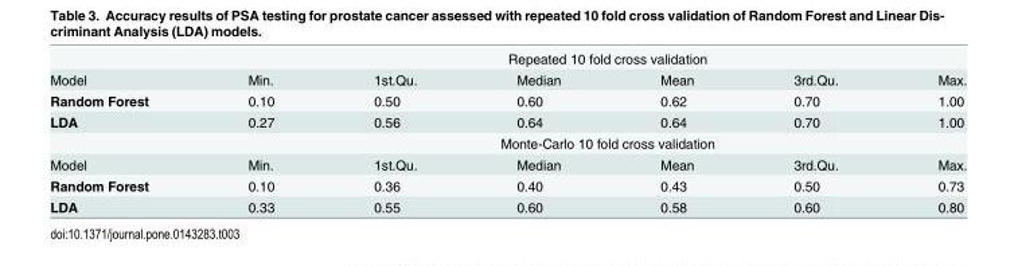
<table><thead><tr><td rowspan="2">Model</td><td colspan="6">Repeated 10 fold cross validation</td></tr><tr><td>Min.</td><td>1st.Qu.</td><td>Median</td><td>Mean</td><td>3rd.Qu.</td><td>Max.</td></tr></thead><tbody><tr><td>Random Forest</td><td>0.10</td><td>0.50</td><td>0.60</td><td>0.62</td><td>0.70</td><td>1.00</td></tr><tr><td rowspan="2">LDA</td><td>0.27</td><td>0.56</td><td>0.64</td><td>0.64</td><td>0.70</td><td>1.00</td></tr><tr><td colspan="6">Monte-Carlo 10 fold cross validation</td></tr><tr><td>Model</td><td>Min.</td><td>1st.Qu.</td><td>Median</td><td>Mean</td><td>3rd.Qu.</td><td>Max.</td></tr><tr><td>Random Forest</td><td>0.10</td><td>0.36</td><td>0.40</td><td>0.43</td><td>0.50</td><td>0.73</td></tr><tr><td>LDA</td><td>0.33</td><td>0.55</td><td>0.60</td><td>0.58</td><td>0.60</td><td>0.80</td></tr></tbody></table>